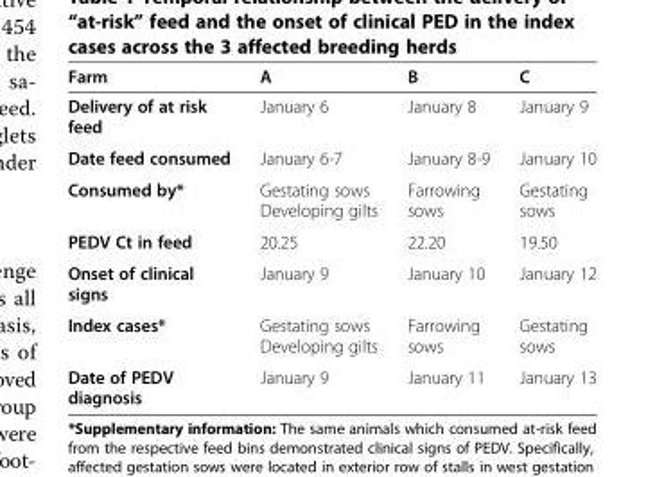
<table><thead><tr><td>Farm</td><td>A</td><td>B</td><td>C</td></tr></thead><tbody><tr><td>Delivery of at risk feed</td><td>January 6</td><td>January 8</td><td>January 9</td></tr><tr><td>Date feed consumed</td><td>January 6-7</td><td>January 8-9</td><td>January 10</td></tr><tr><td>Consumed by*</td><td>Gestating sows Developing gilts</td><td>Farrowing sows</td><td>Gestating sows</td></tr><tr><td>PEDV Ct in feed</td><td>20.25</td><td>22.20</td><td>19.50</td></tr><tr><td>Onset of clinical signs</td><td>January 9</td><td>January 10</td><td>January 12</td></tr><tr><td>Index cases*</td><td>Gestating sows Developing gilts</td><td>Farrowing sows</td><td>Gestating sows</td></tr><tr><td>Date of PEDV diagnosis</td><td>January 9</td><td>January 11</td><td>January 13</td></tr></tbody></table>